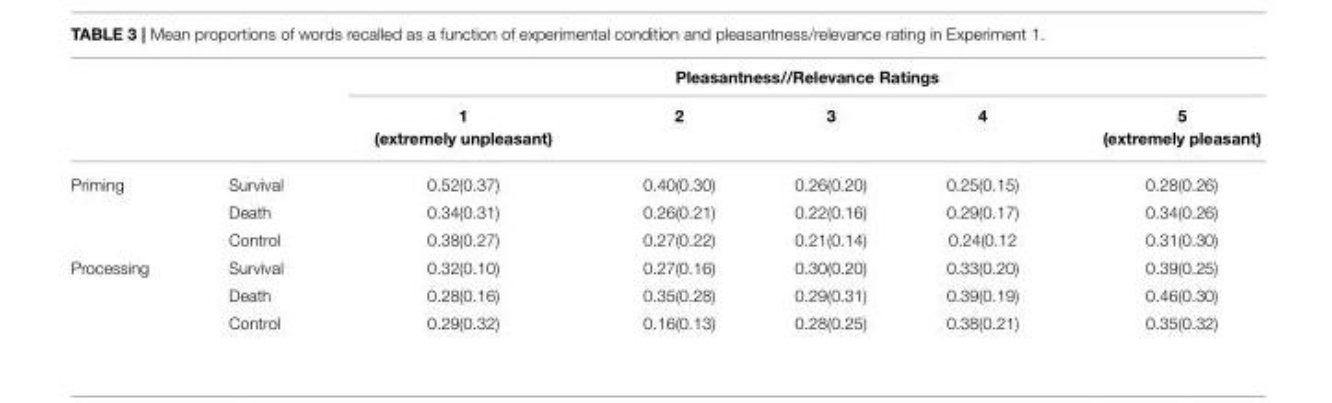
<table><thead><tr><td rowspan="2"></td><td rowspan="2"></td><td colspan="5">Pleasantness//Relevance Ratings</td></tr><tr><td>1 (extremely unpleasant)</td><td>2</td><td>3</td><td>4</td><td>5 (extremely pleasant)</td></tr></thead><tbody><tr><td rowspan="3">Priming</td><td>Survival</td><td>0.52(0.37)</td><td>0.40(0.30)</td><td>0.26(0.20)</td><td>0.25(0.15)</td><td>0.28(0.26)</td></tr><tr><td>Death</td><td>0.34(0.31)</td><td>0.26(0.21)</td><td>0.22(0.16)</td><td>0.29(0.17)</td><td>0.34(0.26)</td></tr><tr><td>Control</td><td>0.38(0.27)</td><td>0.27(0.22)</td><td>0.21(0.14)</td><td>0.24(0.12</td><td>0.31(0.30)</td></tr><tr><td rowspan="3">Processing</td><td>Survival</td><td>0.32(0.10)</td><td>0.27(0.16)</td><td>0.30(0.20)</td><td>0.33(0.20)</td><td>0.39(0.25)</td></tr><tr><td>Death</td><td>0.28(0.16)</td><td>0.35(0.28)</td><td>0.29(0.31)</td><td>0.39(0.19)</td><td>0.46(0.30)</td></tr><tr><td>Control</td><td>0.29(0.32)</td><td>0.16(0.13)</td><td>0.28(0.25)</td><td>0.38(0.21)</td><td>0.35(0.32)</td></tr></tbody></table>